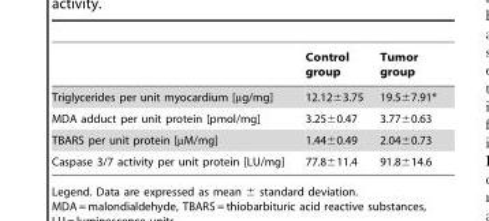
<table><thead><tr><td></td><td>Control group</td><td>Tumor group</td></tr></thead><tbody><tr><td>Triglycerides per unit myocardium [µg/mg]</td><td>12.12±3.75</td><td>19.5±7.91*</td></tr><tr><td>MDA adduct per unit protein [pmol/mg]</td><td>3.25±0.47</td><td>3.77±0.63</td></tr><tr><td>TBARS per unit protein [µM/mg]</td><td>1.44±0.49</td><td>2.04±0.73</td></tr><tr><td>Caspase 3/7 activity per unit protein [LU/mg]</td><td>77.8±11.4</td><td>91.8±14.6</td></tr></tbody></table>